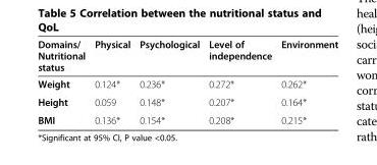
<table><thead><tr><td>Domains/ Nutritional status</td><td>Physical</td><td>Psychological</td><td>Level of independence</td><td>Environment</td></tr></thead><tbody><tr><td>Weight</td><td>0.124*</td><td>0.236*</td><td>0.272*</td><td>0.262*</td></tr><tr><td>Height</td><td>0.059</td><td>0.148*</td><td>0.207*</td><td>0.164*</td></tr><tr><td>BMI</td><td>0.136*</td><td>0.154*</td><td>0.208*</td><td>0.215*</td></tr></tbody></table>